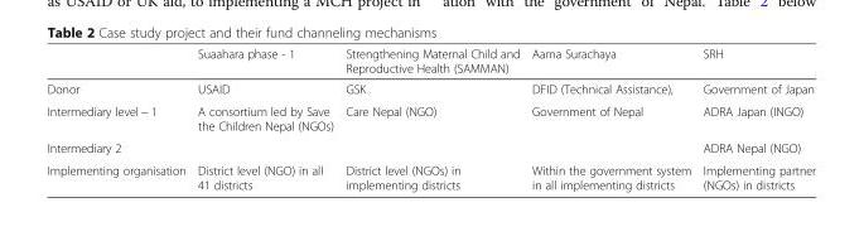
<table><thead><tr><td></td><td>Suaahara phase - 1</td><td>Strengthening Maternal Child and Reproductive Health (SAMMAN)</td><td>Aama Surachaya</td><td>SRH</td></tr></thead><tbody><tr><td>Donor</td><td>USAID</td><td>GSK</td><td>DFID (Technical Assistance),</td><td>Government of Japan</td></tr><tr><td>Intermediary level − 1</td><td>A consortium led by Save the Children Nepal (NGOs)</td><td>Care Nepal (NGO)</td><td>Government of Nepal</td><td>ADRA Japan (INGO)</td></tr><tr><td>Intermediary 2</td><td></td><td></td><td></td><td>ADRA Nepal (NGO)</td></tr><tr><td>Implementing organisation</td><td>District level (NGO) in all 41 districts</td><td>District level (NGOs) in implementing districts</td><td>Within the government system in all implementing districts</td><td>Implementing partner (NGOs) in districts</td></tr></tbody></table>